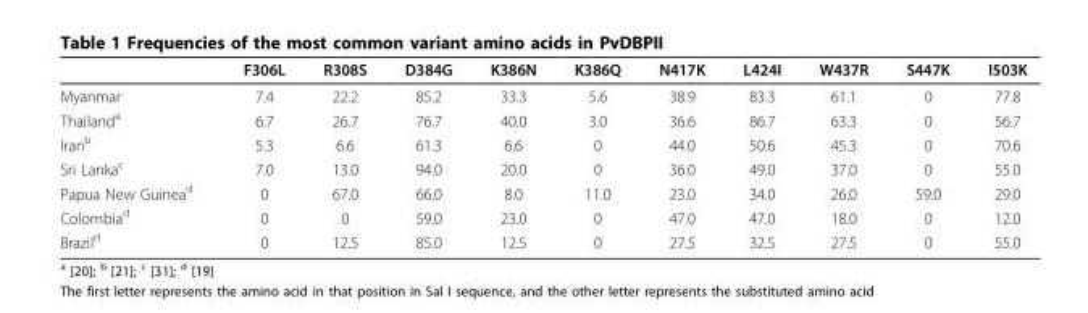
<table><thead><tr><td></td><td>F306L</td><td>R308S</td><td>D384G</td><td>K386N</td><td>K386Q</td><td>N417K</td><td>L424I</td><td>W437R</td><td>S447K</td><td>I503K</td></tr></thead><tbody><tr><td>Myanmar</td><td>7.4</td><td>22.2</td><td>85.2</td><td>33.3</td><td>5.6</td><td>38.9</td><td>83.3</td><td>61.1</td><td>0</td><td>77.8</td></tr><tr><td>Thailand<sup>a</sup></td><td>6.7</td><td>26.7</td><td>76.7</td><td>40.0</td><td>3.0</td><td>36.6</td><td>86.7</td><td>63.3</td><td>0</td><td>56.7</td></tr><tr><td>Iran<sup>b</sup></td><td>5.3</td><td>6.6</td><td>61.3</td><td>6.6</td><td>0</td><td>44.0</td><td>50.6</td><td>45.3</td><td>0</td><td>70.6</td></tr><tr><td>Sri Lanka<sup>c</sup></td><td>7.0</td><td>13.0</td><td>94.0</td><td>20.0</td><td>0</td><td>36.0</td><td>49.0</td><td>37.0</td><td>0</td><td>55.0</td></tr><tr><td>Papua New Guinea<sup>d</sup></td><td>0</td><td>67.0</td><td>66.0</td><td>8.0</td><td>11.0</td><td>23.0</td><td>34.0</td><td>26.0</td><td>59.0</td><td>29.0</td></tr><tr><td>Colombia<sup>d</sup></td><td>0</td><td>0</td><td>59.0</td><td>23.0</td><td>0</td><td>47.0</td><td>47.0</td><td>18.0</td><td>0</td><td>12.0</td></tr><tr><td>Brazil<sup>d</sup></td><td>0</td><td>12.5</td><td>85.0</td><td>12.5</td><td>0</td><td>27.5</td><td>32.5</td><td>27.5</td><td>0</td><td>55.0</td></tr></tbody></table>